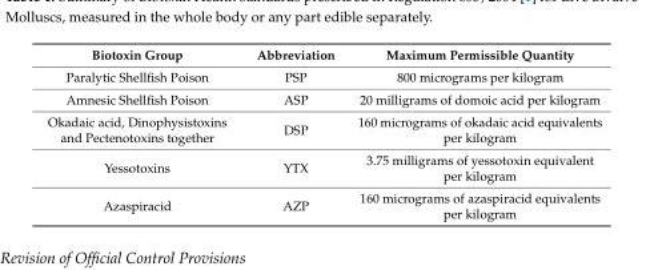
<table><thead><tr><td>Biotoxin Group</td><td>Abbreviation</td><td>Maximum Permissible Quantity</td></tr></thead><tbody><tr><td>Paralytic Shellfish Poison</td><td>PSP</td><td>800 micrograms per kilogram</td></tr><tr><td>Amnesic Shellfish Poison</td><td>ASP</td><td>20 milligrams of domoic acid per kilogram</td></tr><tr><td>Okadaic acid, Dinophysistoxins and Pectenotoxins together</td><td>DSP</td><td>160 micrograms of okadaic acid equivalents per kilogram</td></tr><tr><td>Yessotoxins</td><td>YTX</td><td>3.75 milligrams of yessotoxin equivalent per kilogram</td></tr><tr><td>Azaspiracid</td><td>AZP</td><td>160 micrograms of azaspiracid equivalents per kilogram</td></tr></tbody></table>